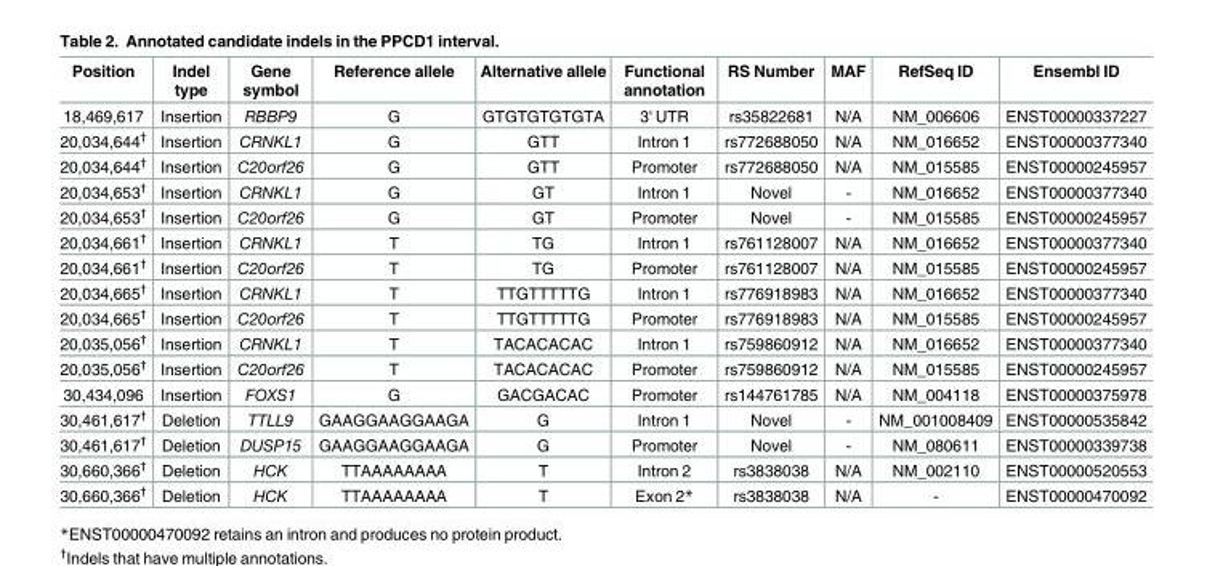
<table><thead><tr><td>Position</td><td>Indel type</td><td>Gene symbol</td><td>Reference allele</td><td>Alternative allele</td><td>Functional annotation</td><td>RS Number</td><td>MAF</td><td>RefSeq ID</td><td>Ensembl ID</td></tr></thead><tbody><tr><td>18,469,617</td><td>Insertion</td><td>RBBP9</td><td>G</td><td>GTGTGTGTGTA</td><td>3&#x27; UTR</td><td>rs35822681</td><td>N/A</td><td>NM_006606</td><td>ENST00000337227</td></tr><tr><td>20,034,644<sup>†</sup></td><td>Insertion</td><td>CRNKL1</td><td>G</td><td>GTT</td><td>Intron 1</td><td>rs772688050</td><td>N/A</td><td>NM_016652</td><td>ENST00000377340</td></tr><tr><td>20,034,644<sup>†</sup></td><td>Insertion</td><td>C20orf26</td><td>G</td><td>GTT</td><td>Promoter</td><td>rs772688050</td><td>N/A</td><td>NM_015585</td><td>ENST00000245957</td></tr><tr><td>20,034,653<sup>†</sup></td><td>Insertion</td><td>CRNKL1</td><td>G</td><td>GT</td><td>Intron 1</td><td>Novel</td><td>-</td><td>NM_016652</td><td>ENST00000377340</td></tr><tr><td>20,034,653<sup>†</sup></td><td>Insertion</td><td>C20orf26</td><td>G</td><td>GT</td><td>Promoter</td><td>Novel</td><td>-</td><td>NM_015585</td><td>ENST00000245957</td></tr><tr><td>20,034,661<sup>†</sup></td><td>Insertion</td><td>CRNKL1</td><td>T</td><td>TG</td><td>Intron 1</td><td>rs761128007</td><td>N/A</td><td>NM_016652</td><td>ENST00000377340</td></tr><tr><td>20,034,661<sup>†</sup></td><td>Insertion</td><td>C20orf26</td><td>T</td><td>TG</td><td>Promoter</td><td>rs761128007</td><td>N/A</td><td>NM_015585</td><td>ENST00000245957</td></tr><tr><td>20,034,665<sup>†</sup></td><td>Insertion</td><td>CRNKL1</td><td>T</td><td>TTGTTTTTG</td><td>Intron 1</td><td>rs776918983</td><td>N/A</td><td>NM_016652</td><td>ENST00000377340</td></tr><tr><td>20,034,665<sup>†</sup></td><td>Insertion</td><td>C20orf26</td><td>T</td><td>TTGTTTTTG</td><td>Promoter</td><td>rs776918983</td><td>N/A</td><td>NM_015585</td><td>ENST00000245957</td></tr><tr><td>20,035,056<sup>†</sup></td><td>Insertion</td><td>CRNKL1</td><td>T</td><td>TACACACAC</td><td>Intron 1</td><td>rs759860912</td><td>N/A</td><td>NM_016652</td><td>ENST00000377340</td></tr><tr><td>20,035,056<sup>†</sup></td><td>Insertion</td><td>C20orf26</td><td>T</td><td>TACACACAC</td><td>Promoter</td><td>rs759860912</td><td>N/A</td><td>NM_015585</td><td>ENST00000245957</td></tr><tr><td>30,434,096</td><td>Insertion</td><td>FOXS1</td><td>G</td><td>GACGACAC</td><td>Promoter</td><td>rs144761785</td><td>N/A</td><td>NM_004118</td><td>ENST00000375978</td></tr><tr><td>30,461,617<sup>†</sup></td><td>Deletion</td><td>TTLL9</td><td>GAAGGAAGGAAGA</td><td>G</td><td>Intron 1</td><td>Novel</td><td>-</td><td>NM_001008409</td><td>ENST00000535842</td></tr><tr><td>30,461,617<sup>†</sup></td><td>Deletion</td><td>DUSP15</td><td>GAAGGAAGGAAGA</td><td>G</td><td>Promoter</td><td>Novel</td><td>-</td><td>NM_080611</td><td>ENST00000339738</td></tr><tr><td>30,660,366<sup>†</sup></td><td>Deletion</td><td>HCK</td><td>TTAAAAAAAA</td><td>T</td><td>Intron 2</td><td>rs3838038</td><td>N/A</td><td>NM_002110</td><td>ENST00000520553</td></tr><tr><td>30,660,366<sup>†</sup></td><td>Deletion</td><td>HCK</td><td>TTAAAAAAAA</td><td>T</td><td>Exon 2*</td><td>rs3838038</td><td>N/A</td><td>-</td><td>ENST00000470092</td></tr></tbody></table>